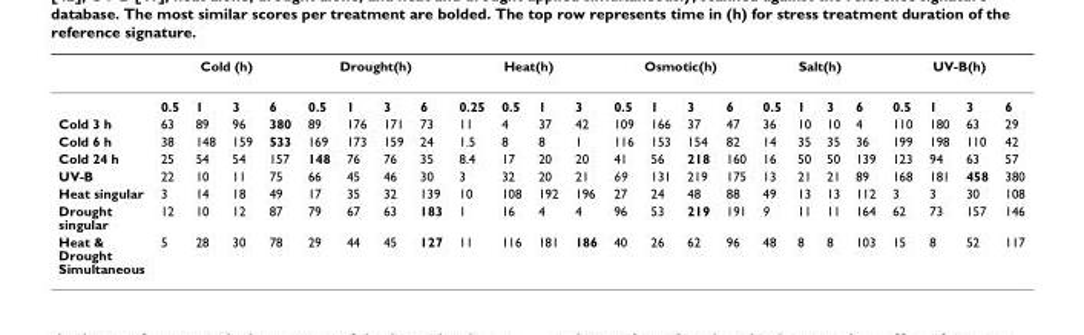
<table><thead><tr><td rowspan="2"></td><td colspan="4">Cold (h)</td><td colspan="4">Drought(h)</td><td colspan="4">Heat(h)</td><td colspan="4">Osmotic(h)</td><td colspan="4">Salt(h)</td><td colspan="4">UV-B(h)</td></tr><tr><td>0.5</td><td>1</td><td>3</td><td>6</td><td>0.5</td><td>1</td><td>3</td><td>6</td><td>0.25</td><td>0.5</td><td>1</td><td>3</td><td>0.5</td><td>1</td><td>3</td><td>6</td><td>0.5</td><td>1</td><td>3</td><td>6</td><td>0.5</td><td>1</td><td>3</td><td>6</td></tr></thead><tbody><tr><td>Cold 3 h</td><td>63</td><td>89</td><td>96</td><td>380</td><td>89</td><td>176</td><td>171</td><td>73</td><td>11</td><td>4</td><td>37</td><td>42</td><td>109</td><td>166</td><td>37</td><td>47</td><td>36</td><td>10</td><td>10</td><td>4</td><td>110</td><td>180</td><td>63</td><td>29</td></tr><tr><td>Cold 6 h</td><td>38</td><td>148</td><td>159</td><td>533</td><td>169</td><td>173</td><td>159</td><td>24</td><td>1.5</td><td>8</td><td>8</td><td>1</td><td>116</td><td>153</td><td>154</td><td>82</td><td>14</td><td>35</td><td>35</td><td>36</td><td>199</td><td>198</td><td>110</td><td>42</td></tr><tr><td>Cold 24 h</td><td>25</td><td>54</td><td>54</td><td>157</td><td>148</td><td>76</td><td>76</td><td>35</td><td>8.4</td><td>17</td><td>20</td><td>20</td><td>41</td><td>56</td><td>218</td><td>160</td><td>16</td><td>50</td><td>50</td><td>139</td><td>123</td><td>94</td><td>63</td><td>57</td></tr><tr><td>UV-B</td><td>22</td><td>10</td><td>11</td><td>75</td><td>66</td><td>45</td><td>46</td><td>30</td><td>3</td><td>32</td><td>20</td><td>21</td><td>69</td><td>131</td><td>219</td><td>175</td><td>13</td><td>21</td><td>21</td><td>89</td><td>168</td><td>181</td><td>458</td><td>380</td></tr><tr><td>Heat singular</td><td>3</td><td>14</td><td>18</td><td>49</td><td>17</td><td>35</td><td>32</td><td>139</td><td>10</td><td>108</td><td>192</td><td>196</td><td>27</td><td>24</td><td>48</td><td>88</td><td>49</td><td>13</td><td>13</td><td>112</td><td>3</td><td>3</td><td>30</td><td>108</td></tr><tr><td>Drought singular</td><td>12</td><td>10</td><td>12</td><td>87</td><td>79</td><td>67</td><td>63</td><td>183</td><td>1</td><td>16</td><td>4</td><td>4</td><td>96</td><td>53</td><td>219</td><td>191</td><td>9</td><td>11</td><td>11</td><td>164</td><td>62</td><td>73</td><td>157</td><td>146</td></tr><tr><td>Heat &amp; Drought Simultaneous</td><td>5</td><td>28</td><td>30</td><td>78</td><td>29</td><td>44</td><td>45</td><td>127</td><td>11</td><td>116</td><td>181</td><td>186</td><td>40</td><td>26</td><td>62</td><td>96</td><td>48</td><td>8</td><td>8</td><td>103</td><td>15</td><td>8</td><td>52</td><td>117</td></tr></tbody></table>